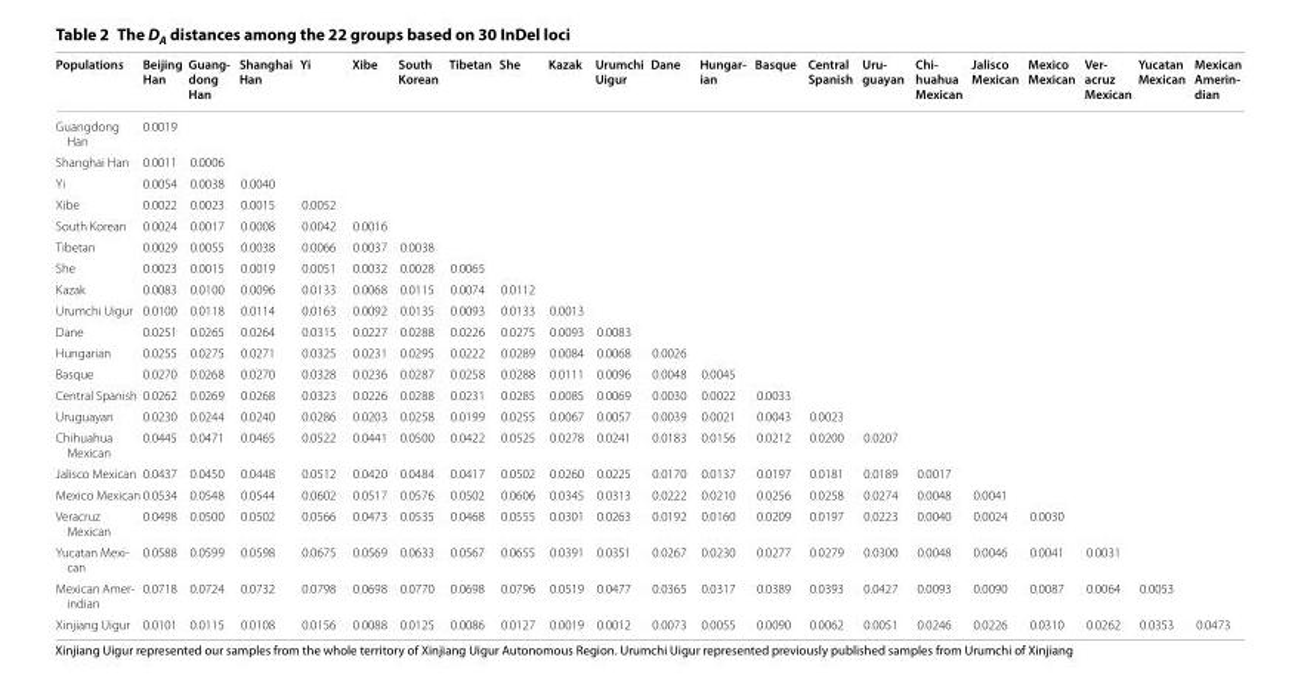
<table><thead><tr><td>Populations</td><td>Beijing Han</td><td>Guang- dong Han</td><td>Shanghai Han</td><td>Yi</td><td>Xibe</td><td>South Korean</td><td>Tibetan</td><td>She</td><td>Kazak</td><td>Urumchi Uigur</td><td>Dane</td><td>Hungar- ian</td><td>Basque</td><td>Central Spanish</td><td>Uru- guayan</td><td>Chi- huahua Mexican</td><td>Jalisco Mexican</td><td>Mexico Mexican</td><td>Ver- acruz Mexican</td><td>Yucatan Mexican</td><td>Mexican Amerin- dian</td></tr></thead><tbody><tr><td>Guangdong Han</td><td>0.0019</td><td></td><td></td><td></td><td></td><td></td><td></td><td></td><td></td><td></td><td></td><td></td><td></td><td></td><td></td><td></td><td></td><td></td><td></td><td></td><td></td></tr><tr><td>Shanghai Han</td><td>0.0011</td><td>0.0006</td><td></td><td></td><td></td><td></td><td></td><td></td><td></td><td></td><td></td><td></td><td></td><td></td><td></td><td></td><td></td><td></td><td></td><td></td><td></td></tr><tr><td>Yi</td><td>0.0054</td><td>0.0038</td><td>0.0040</td><td></td><td></td><td></td><td></td><td></td><td></td><td></td><td></td><td></td><td></td><td></td><td></td><td></td><td></td><td></td><td></td><td></td><td></td></tr><tr><td>Xibe</td><td>0.0022</td><td>0.0023</td><td>0.0015</td><td>0.0052</td><td></td><td></td><td></td><td></td><td></td><td></td><td></td><td></td><td></td><td></td><td></td><td></td><td></td><td></td><td></td><td></td><td></td></tr><tr><td>South Korean</td><td>0.0024</td><td>0.0017</td><td>0.0008</td><td>0.0042</td><td>0.0016</td><td></td><td></td><td></td><td></td><td></td><td></td><td></td><td></td><td></td><td></td><td></td><td></td><td></td><td></td><td></td><td></td></tr><tr><td>Tibetan</td><td>0.0029</td><td>0.0055</td><td>0.0038</td><td>0.0066</td><td>0.0037</td><td>0.0038</td><td></td><td></td><td></td><td></td><td></td><td></td><td></td><td></td><td></td><td></td><td></td><td></td><td></td><td></td><td></td></tr><tr><td>She</td><td>0.0023</td><td>0.0015</td><td>0.0019</td><td>0.0051</td><td>0.0032</td><td>0.0028</td><td>0.0065</td><td></td><td></td><td></td><td></td><td></td><td></td><td></td><td></td><td></td><td></td><td></td><td></td><td></td><td></td></tr><tr><td>Kazak</td><td>0.0083</td><td>0.0100</td><td>0.0096</td><td>0.0133</td><td>0.0068</td><td>0.0115</td><td>0.0074</td><td>0.0112</td><td></td><td></td><td></td><td></td><td></td><td></td><td></td><td></td><td></td><td></td><td></td><td></td><td></td></tr><tr><td>Urumchi Uigur</td><td>0.0100</td><td>0.0118</td><td>0.0114</td><td>0.0163</td><td>0.0092</td><td>0.0135</td><td>0.0093</td><td>0.0133</td><td>0.0013</td><td></td><td></td><td></td><td></td><td></td><td></td><td></td><td></td><td></td><td></td><td></td><td></td></tr><tr><td>Dane</td><td>0.0251</td><td>0.0265</td><td>0.0264</td><td>0.0315</td><td>0.0227</td><td>0.0288</td><td>0.0226</td><td>0.0275</td><td>0.0093</td><td>0.0083</td><td></td><td></td><td></td><td></td><td></td><td></td><td></td><td></td><td></td><td></td><td></td></tr><tr><td>Hungarian</td><td>0.0255</td><td>0.0275</td><td>0.0271</td><td>0.0325</td><td>0.0231</td><td>0.0295</td><td>0.0222</td><td>0.0289</td><td>0.0084</td><td>0.0068</td><td>0.0026</td><td></td><td></td><td></td><td></td><td></td><td></td><td></td><td></td><td></td><td></td></tr><tr><td>Basque</td><td>0.0270</td><td>0.0268</td><td>0.0270</td><td>0.0328</td><td>0.0236</td><td>0.0287</td><td>0.0258</td><td>0.0288</td><td>0.0111</td><td>0.0096</td><td>0.0048</td><td>0.0045</td><td></td><td></td><td></td><td></td><td></td><td></td><td></td><td></td><td></td></tr><tr><td>Central Spanish</td><td>0.0262</td><td>0.0269</td><td>0.0268</td><td>0.0323</td><td>0.0226</td><td>0.0288</td><td>0.0231</td><td>0.0285</td><td>0.0085</td><td>0.0069</td><td>0.0030</td><td>0.0022</td><td>0.0033</td><td></td><td></td><td></td><td></td><td></td><td></td><td></td><td></td></tr><tr><td>Uruguayan</td><td>0.0230</td><td>0.0244</td><td>0.0240</td><td>0.0286</td><td>0.0203</td><td>0.0258</td><td>0.0199</td><td>0.0255</td><td>0.0067</td><td>0.0057</td><td>0.0039</td><td>0.0021</td><td>0.0043</td><td>0.0023</td><td></td><td></td><td></td><td></td><td></td><td></td><td></td></tr><tr><td>Chihuahua Mexican</td><td>0.0445</td><td>0.0471</td><td>0.0465</td><td>0.0522</td><td>0.0441</td><td>0.0500</td><td>0.0422</td><td>0.0525</td><td>0.0278</td><td>0.0241</td><td>0.0183</td><td>0.0156</td><td>0.0212</td><td>0.0200</td><td>0.0207</td><td></td><td></td><td></td><td></td><td></td><td></td></tr><tr><td>Jalisco Mexican</td><td>0.0437</td><td>0.0450</td><td>0.0448</td><td>0.0512</td><td>0.0420</td><td>0.0484</td><td>0.0417</td><td>0.0502</td><td>0.0260</td><td>0.0225</td><td>0.0170</td><td>0.0137</td><td>0.0197</td><td>0.0181</td><td>0.0189</td><td>0.0017</td><td></td><td></td><td></td><td></td><td></td></tr><tr><td>Mexico Mexican</td><td>0.0534</td><td>0.0548</td><td>0.0544</td><td>0.0602</td><td>0.0517</td><td>0.0576</td><td>0.0502</td><td>0.0606</td><td>0.0345</td><td>0.0313</td><td>0.0222</td><td>0.0210</td><td>0.0256</td><td>0.0258</td><td>0.0274</td><td>0.0048</td><td>0.0041</td><td></td><td></td><td></td><td></td></tr><tr><td>Veracruz Mexican</td><td>0.0498</td><td>0.0500</td><td>0.0502</td><td>0.0566</td><td>0.0473</td><td>0.0535</td><td>0.0468</td><td>0.0555</td><td>0.0301</td><td>0.0263</td><td>0.0192</td><td>0.0160</td><td>0.0209</td><td>0.0197</td><td>0.0223</td><td>0.0040</td><td>0.0024</td><td>0.0030</td><td></td><td></td><td></td></tr><tr><td>Yucatan Mexi‑ can</td><td>0.0588</td><td>0.0599</td><td>0.0598</td><td>0.0675</td><td>0.0569</td><td>0.0633</td><td>0.0567</td><td>0.0655</td><td>0.0391</td><td>0.0351</td><td>0.0267</td><td>0.0230</td><td>0.0277</td><td>0.0279</td><td>0.0300</td><td>0.0048</td><td>0.0046</td><td>0.0041</td><td>0.0031</td><td></td><td></td></tr><tr><td>Mexican Amer‑ indian</td><td>0.0718</td><td>0.0724</td><td>0.0732</td><td>0.0798</td><td>0.0698</td><td>0.0770</td><td>0.0698</td><td>0.0796</td><td>0.0519</td><td>0.0477</td><td>0.0365</td><td>0.0317</td><td>0.0389</td><td>0.0393</td><td>0.0427</td><td>0.0093</td><td>0.0090</td><td>0.0087</td><td>0.0064</td><td>0.0053</td><td></td></tr><tr><td>Xinjiang Uigur</td><td>0.0101</td><td>0.0115</td><td>0.0108</td><td>0.0156</td><td>0.0088</td><td>0.0125</td><td>0.0086</td><td>0.0127</td><td>0.0019</td><td>0.0012</td><td>0.0073</td><td>0.0055</td><td>0.0090</td><td>0.0062</td><td>0.0051</td><td>0.0246</td><td>0.0226</td><td>0.0310</td><td>0.0262</td><td>0.0353</td><td>0.0473</td></tr></tbody></table>